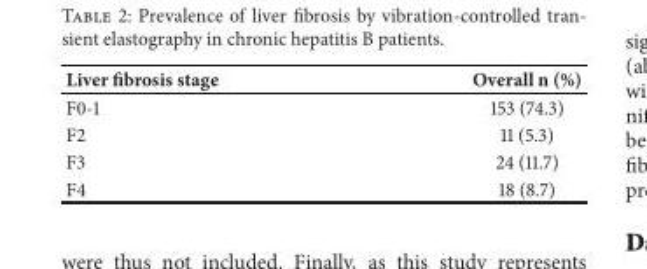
<table><thead><tr><td>Liver fibrosis stage</td><td>Overall n (%)</td></tr></thead><tbody><tr><td>F0-1</td><td>153 (74.3)</td></tr><tr><td>F2</td><td>11 (5.3)</td></tr><tr><td>F3</td><td>24 (11.7)</td></tr><tr><td>F4</td><td>18 (8.7)</td></tr></tbody></table>